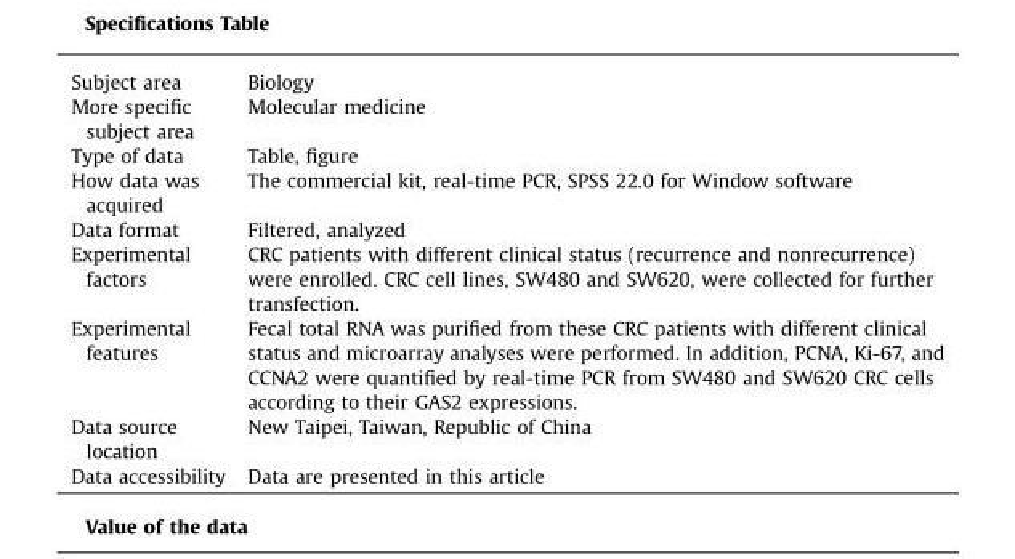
<table><tbody><tr><td>Subject area</td><td>Biology</td></tr><tr><td>More specific subject area</td><td>Molecular medicine</td></tr><tr><td>Type of data</td><td>Table, figure</td></tr><tr><td>How data was acquired</td><td>The commercial kit, real-time PCR, SPSS 22.0 for Window software</td></tr><tr><td>Data format</td><td>Filtered, analyzed</td></tr><tr><td>Experimental factors</td><td>CRC patients with different clinical status (recurrence and nonrecurrence) were enrolled. CRC cell lines, SW480 and SW620, were collected for further transfection.</td></tr><tr><td>Experimental features</td><td>Fecal total RNA was purified from these CRC patients with different clinical status and microarray analyses were performed. In addition, PCNA, Ki-67, and CCNA2 were quantified by real-time PCR from SW480 and SW620 CRC cells according to their GAS2 expressions.</td></tr><tr><td>Data source location</td><td>New Taipei, Taiwan, Republic of China</td></tr><tr><td>Data accessibility</td><td>Data are presented in this article</td></tr></tbody></table>